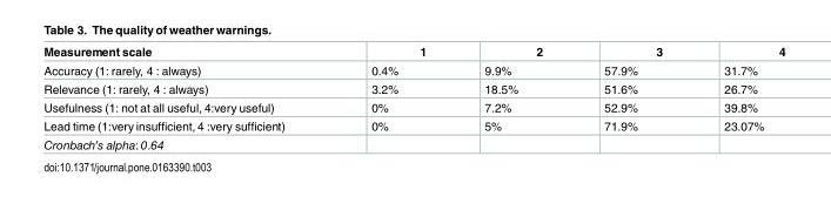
<table><thead><tr><td>Measurement scale</td><td>1</td><td>2</td><td>3</td><td>4</td></tr></thead><tbody><tr><td>Accuracy (1: rarely, 4 : always)</td><td>0.4%</td><td>9.9%</td><td>57.9%</td><td>31.7%</td></tr><tr><td>Relevance (1: rarely, 4 : always)</td><td>3.2%</td><td>18.5%</td><td>51.6%</td><td>26.7%</td></tr><tr><td>Usefulness (1: not at all useful, 4:very useful)</td><td>0%</td><td>7.2%</td><td>52.9%</td><td>39.8%</td></tr><tr><td>Lead time (1:very insufficient, 4 :very sufficient)</td><td>0%</td><td>5%</td><td>71.9%</td><td>23.07%</td></tr><tr><td>Cronbach’s alpha: 0.64</td><td></td><td></td><td></td><td></td></tr></tbody></table>